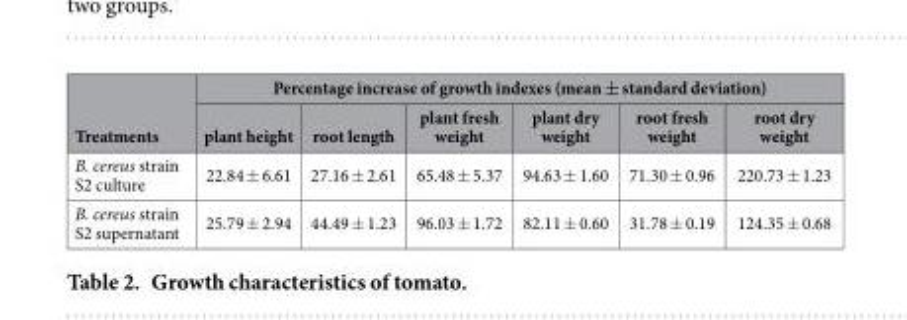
<table><thead><tr><td rowspan="2">Treatments</td><td colspan="6">Percentage increase of growth indexes (mean ± standard deviation)</td></tr><tr><td>plant height</td><td>root length</td><td>plant fresh weight</td><td>plant dry weight</td><td>root fresh weight</td><td>root dry weight</td></tr></thead><tbody><tr><td>B. cereus strain S2 culture</td><td>22.84 ± 6.61</td><td>27.16 ± 2.61</td><td>65.48 ± 5.37</td><td>94.63 ± 1.60</td><td>71.30 ± 0.96</td><td>220.73 ± 1.23</td></tr><tr><td>B. cereus strain S2 supernatant</td><td>25.79 ± 2.94</td><td>44.49 ± 1.23</td><td>96.03 ± 1.72</td><td>82.11 ± 0.60</td><td>31.78 ± 0.19</td><td>124.35 ± 0.68</td></tr></tbody></table>